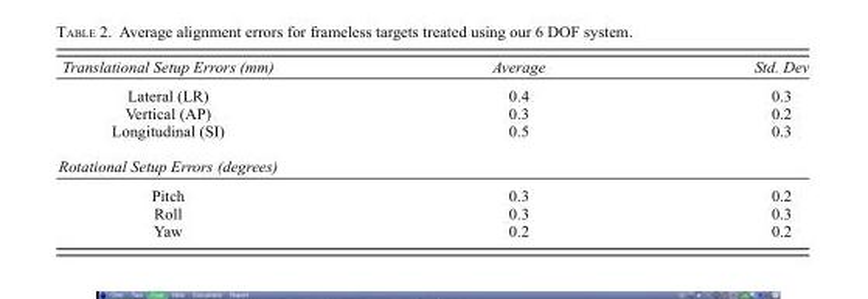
<table><thead><tr><td>Translational Setup Errors (mm)</td><td>Average</td><td>Std. Dev</td></tr></thead><tbody><tr><td>Lateral (LR)</td><td>0.4</td><td>0.3</td></tr><tr><td>Vertical (AP)</td><td>0.3</td><td>0.2</td></tr><tr><td>Longitudinal (SI)</td><td>0.5</td><td>0.3</td></tr><tr><td colspan="3">Rotational Setup Errors (degrees)</td></tr><tr><td>Pitch</td><td>0.3</td><td>0.2</td></tr><tr><td>Roll</td><td>0.3</td><td>0.3</td></tr><tr><td>Yaw</td><td>0.2</td><td>0.2</td></tr></tbody></table>